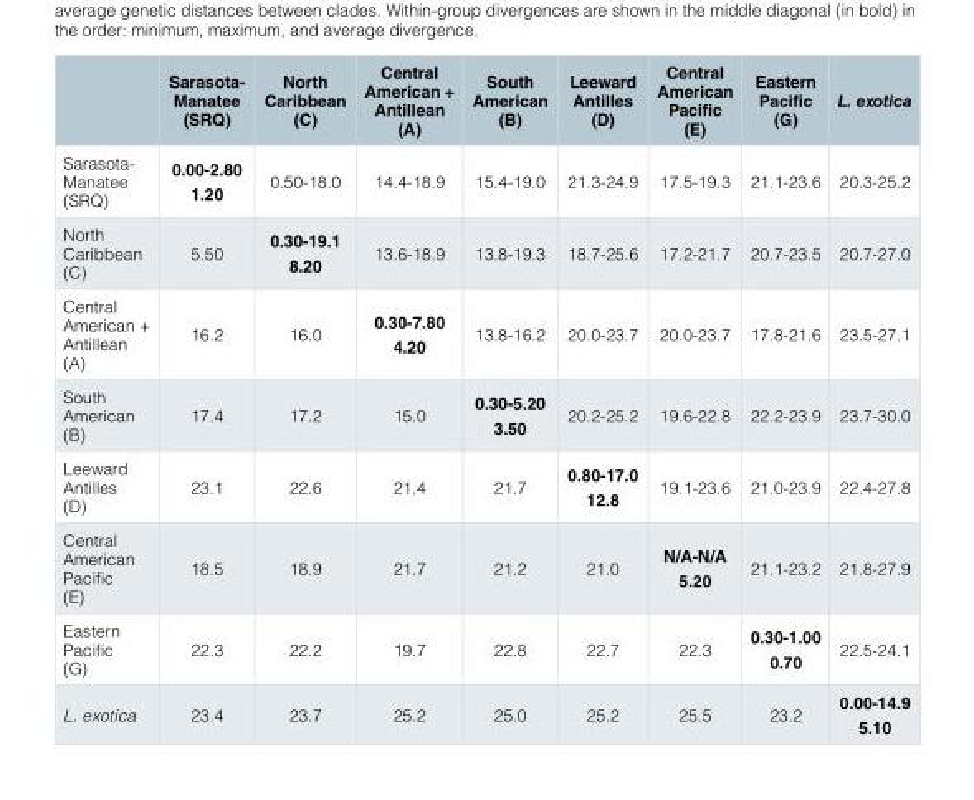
<table><thead><tr><td></td><td>Sarasota- Manatee (SRQ)</td><td>North Caribbean (C)</td><td>Central American + Antillean (A)</td><td>South American (B)</td><td>Leeward Antilles (D)</td><td>Central American Pacific (E)</td><td>Eastern Pacific (G)</td><td>L. exotica</td></tr></thead><tbody><tr><td>Sarasota- Manatee (SRQ)</td><td>0.00-2.80 1.20</td><td>0.50-18.0</td><td>14.4-18.9</td><td>15.4-19.0</td><td>21.3-24.9</td><td>17.5-19.3</td><td>21.1-23.6</td><td>20.3-25.2</td></tr><tr><td>North Caribbean (C)</td><td>5.50</td><td>0.30-19.1 8.20</td><td>13.6-18.9</td><td>13.8-19.3</td><td>18.7-25.6</td><td>17.2-21.7</td><td>20.7-23.5</td><td>20.7-27.0</td></tr><tr><td>Central American + Antillean (A)</td><td>16.2</td><td>16.0</td><td>0.30-7.80 4.20</td><td>13.8-16.2</td><td>20.0-23.7</td><td>20.0-23.7</td><td>17.8-21.6</td><td>23.5-27.1</td></tr><tr><td>South American (B)</td><td>17.4</td><td>17.2</td><td>15.0</td><td>0.30-5.20 3.50</td><td>20.2-25.2</td><td>19.6-22.8</td><td>22.2-23.9</td><td>23.7-30.0</td></tr><tr><td>Leeward Antilles (D)</td><td>23.1</td><td>22.6</td><td>21.4</td><td>21.7</td><td>0.80-17.0 12.8</td><td>19.1-23.6</td><td>21.0-23.9</td><td>22.4-27.8</td></tr><tr><td>Central American Pacific (E)</td><td>18.5</td><td>18.9</td><td>21.7</td><td>21.2</td><td>21.0</td><td>N/A-N/A 5.20</td><td>21.1-23.2</td><td>21.8-27.9</td></tr><tr><td>Eastern Pacific (G)</td><td>22.3</td><td>22.2</td><td>19.7</td><td>22.8</td><td>22.7</td><td>22.3</td><td>0.30-1.00 0.70</td><td>22.5-24.1</td></tr><tr><td>L. exotica</td><td>23.4</td><td>23.7</td><td>25.2</td><td>25.0</td><td>25.2</td><td>25.5</td><td>23.2</td><td>0.00-14.9 5.10</td></tr></tbody></table>